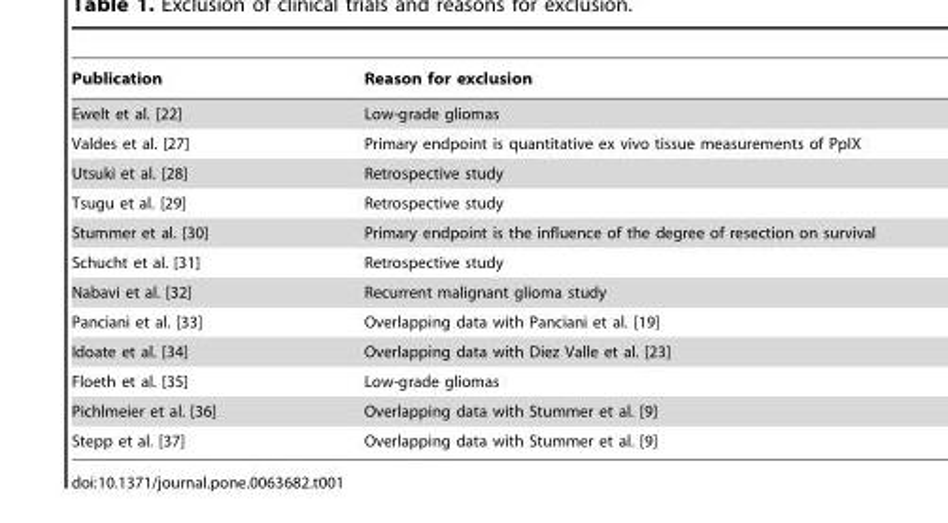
<table><thead><tr><td>Publication</td><td>Reason for exclusion</td></tr></thead><tbody><tr><td>Ewelt et al. [22]</td><td>Low-grade gliomas</td></tr><tr><td>Valdes et al. [27]</td><td>Primary endpoint is quantitative ex vivo tissue measurements of PpIX</td></tr><tr><td>Utsuki et al. [28]</td><td>Retrospective study</td></tr><tr><td>Tsugu et al. [29]</td><td>Retrospective study</td></tr><tr><td>Stummer et al. [30]</td><td>Primary endpoint is the influence of the degree of resection on survival</td></tr><tr><td>Schucht et al. [31]</td><td>Retrospective study</td></tr><tr><td>Nabavi et al. [32]</td><td>Recurrent malignant glioma study</td></tr><tr><td>Panciani et al. [33]</td><td>Overlapping data with Panciani et al. [19]</td></tr><tr><td>Idoate et al. [34]</td><td>Overlapping data with Diez Valle et al. [23]</td></tr><tr><td>Floeth et al. [35]</td><td>Low-grade gliomas</td></tr><tr><td>Pichlmeier et al. [36]</td><td>Overlapping data with Stummer et al. [9]</td></tr><tr><td>Stepp et al. [37]</td><td>Overlapping data with Stummer et al. [9]</td></tr></tbody></table>